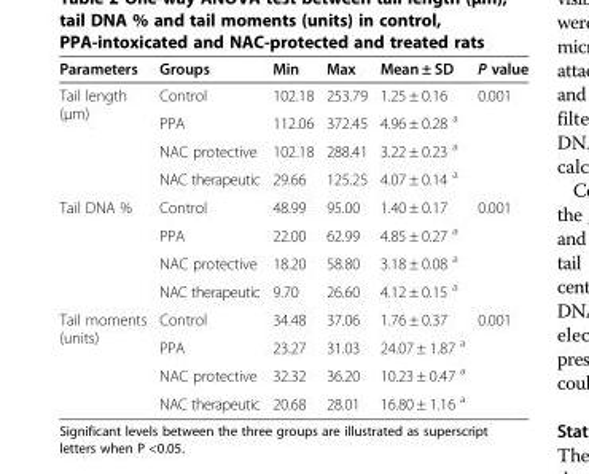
<table><thead><tr><td>Parameters</td><td>Groups</td><td>Min</td><td>Max</td><td>Mean ± SD</td><td>P value</td></tr></thead><tbody><tr><td rowspan="4">Tail length (μm)</td><td>Control</td><td>102.18</td><td>253.79</td><td>1.25 ± 0.16</td><td rowspan="4">0.001</td></tr><tr><td>PPA</td><td>112.06</td><td>372.45</td><td>4.96 ± 0.28 <sup>a</sup></td></tr><tr><td>NAC protective</td><td>102.18</td><td>288.41</td><td>3.22 ± 0.23 <sup>a</sup></td></tr><tr><td>NAC therapeutic</td><td>29.66</td><td>125.25</td><td>4.07 ± 0.14 <sup>a</sup></td></tr><tr><td rowspan="4">Tail DNA %</td><td>Control</td><td>48.99</td><td>95.00</td><td>1.40 ± 0.17</td><td rowspan="4">0.001</td></tr><tr><td>PPA</td><td>22.00</td><td>62.99</td><td>4.85 ± 0.27 <sup>a</sup></td></tr><tr><td>NAC protective</td><td>18.20</td><td>58.80</td><td>3.18 ± 0.08 <sup>a</sup></td></tr><tr><td>NAC therapeutic</td><td>9.70</td><td>26.60</td><td>4.12 ± 0.15 <sup>a</sup></td></tr><tr><td rowspan="4">Tail moments (units)</td><td>Control</td><td>34.48</td><td>37.06</td><td>1.76 ± 0.37</td><td rowspan="4">0.001</td></tr><tr><td>PPA</td><td>23.27</td><td>31.03</td><td>24.07 ± 1.87 <sup>a</sup></td></tr><tr><td>NAC protective</td><td>32.32</td><td>36.20</td><td>10.23 ± 0.47 <sup>a</sup></td></tr><tr><td>NAC therapeutic</td><td>20.68</td><td>28.01</td><td>16.80 ± 1.16 <sup>a</sup></td></tr></tbody></table>